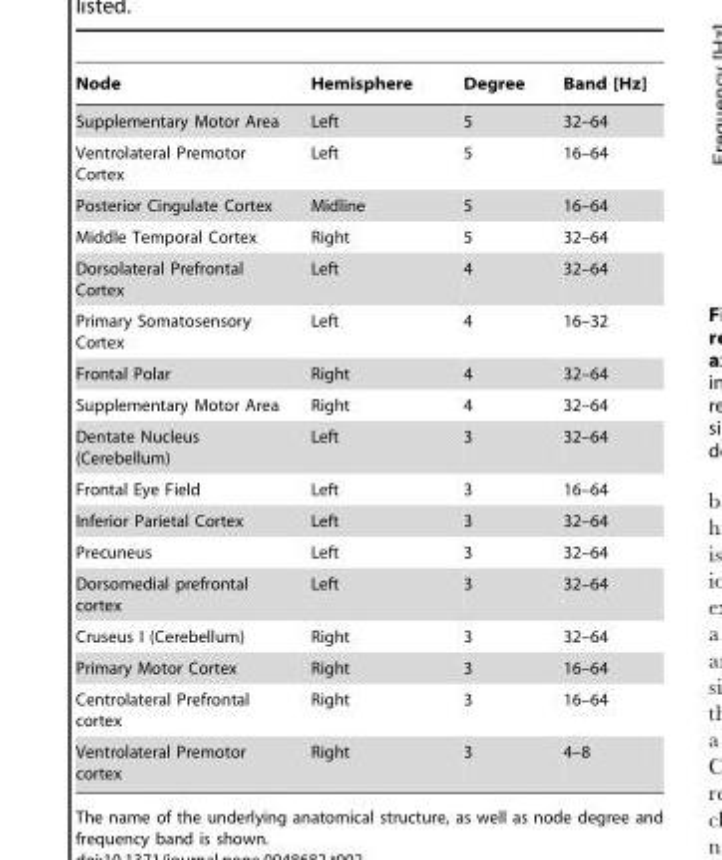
<table><thead><tr><td>Node</td><td>Hemisphere</td><td>Degree</td><td>Band [Hz]</td></tr></thead><tbody><tr><td>Supplementary Motor Area</td><td>Left</td><td>5</td><td>32–64</td></tr><tr><td>Ventrolateral Premotor Cortex</td><td>Left</td><td>5</td><td>16–64</td></tr><tr><td>Posterior Cingulate Cortex</td><td>Midline</td><td>5</td><td>16–64</td></tr><tr><td>Middle Temporal Cortex</td><td>Right</td><td>5</td><td>32–64</td></tr><tr><td>Dorsolateral Prefrontal Cortex</td><td>Left</td><td>4</td><td>32–64</td></tr><tr><td>Primary Somatosensory Cortex</td><td>Left</td><td>4</td><td>16–32</td></tr><tr><td>Frontal Polar</td><td>Right</td><td>4</td><td>32–64</td></tr><tr><td>Supplementary Motor Area</td><td>Right</td><td>4</td><td>32–64</td></tr><tr><td>Dentate Nucleus (Cerebellum)</td><td>Left</td><td>3</td><td>32–64</td></tr><tr><td>Frontal Eye Field</td><td>Left</td><td>3</td><td>16–64</td></tr><tr><td>Inferior Parietal Cortex</td><td>Left</td><td>3</td><td>32–64</td></tr><tr><td>Precuneus</td><td>Left</td><td>3</td><td>32–64</td></tr><tr><td>Dorsomedial prefrontal cortex</td><td>Left</td><td>3</td><td>32–64</td></tr><tr><td>Cruseus I (Cerebellum)</td><td>Right</td><td>3</td><td>32–64</td></tr><tr><td>Primary Motor Cortex</td><td>Right</td><td>3</td><td>16–64</td></tr><tr><td>Centrolateral Prefrontal cortex</td><td>Right</td><td>3</td><td>16–64</td></tr><tr><td>Ventrolateral Premotor cortex</td><td>Right</td><td>3</td><td>4–8</td></tr></tbody></table>